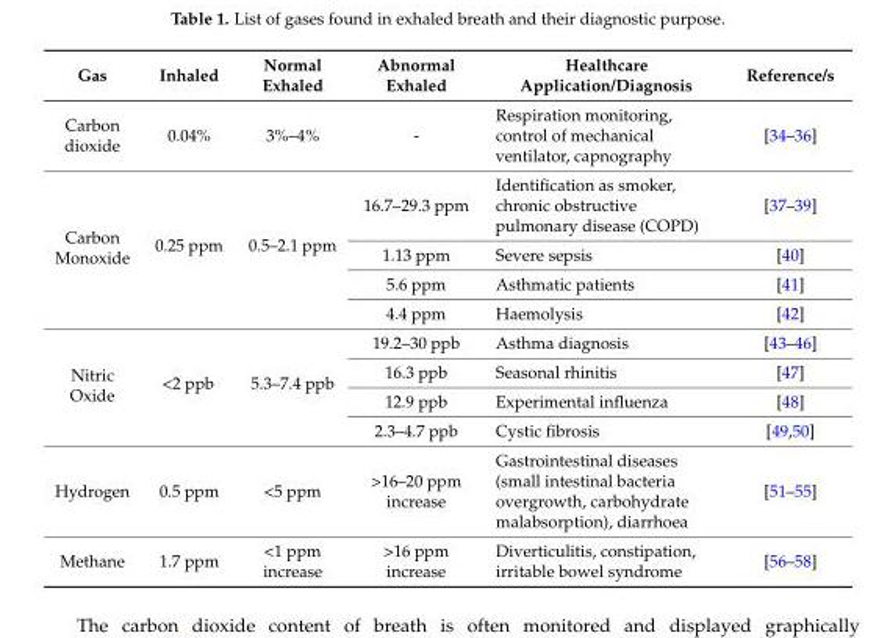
<table><thead><tr><td>Gas</td><td>Inhaled</td><td>Normal Exhaled</td><td>Abnormal Exhaled</td><td>Healthcare Application/Diagnosis</td><td>Reference/s</td></tr></thead><tbody><tr><td>Carbon dioxide</td><td>0.04%</td><td>3%–4%</td><td>-</td><td>Respiration monitoring, control of mechanical ventilator, capnography</td><td>[34–36]</td></tr><tr><td rowspan="4">Carbon Monoxide</td><td rowspan="4">0.25 ppm</td><td rowspan="4">0.5–2.1 ppm</td><td>16.7–29.3 ppm</td><td>Identification as smoker, chronic obstructive pulmonary disease (COPD)</td><td>[37–39]</td></tr><tr><td>1.13 ppm</td><td>Severe sepsis</td><td>[40]</td></tr><tr><td>5.6 ppm</td><td>Asthmatic patients</td><td>[41]</td></tr><tr><td>4.4 ppm</td><td>Haemolysis</td><td>[42]</td></tr><tr><td rowspan="4">Nitric Oxide</td><td rowspan="4">&lt;2 ppb</td><td rowspan="4">5.3–7.4 ppb</td><td>19.2–30 ppb</td><td>Asthma diagnosis</td><td>[43–46]</td></tr><tr><td>16.3 ppb</td><td>Seasonal rhinitis</td><td>[47]</td></tr><tr><td>12.9 ppb</td><td>Experimental influenza</td><td>[48]</td></tr><tr><td>2.3–4.7 ppb</td><td>Cystic fibrosis</td><td>[49,50]</td></tr><tr><td>Hydrogen</td><td>0.5 ppm</td><td>&lt;5 ppm</td><td>&gt;16–20 ppm increase</td><td>Gastrointestinal diseases (small intestinal bacteria overgrowth, carbohydrate malabsorption), diarrhoea</td><td>[51–55]</td></tr><tr><td>Methane</td><td>1.7 ppm</td><td>&lt;1 ppm increase</td><td>&gt;16 ppm increase</td><td>Diverticulitis, constipation, irritable bowel syndrome</td><td>[56–58]</td></tr></tbody></table>